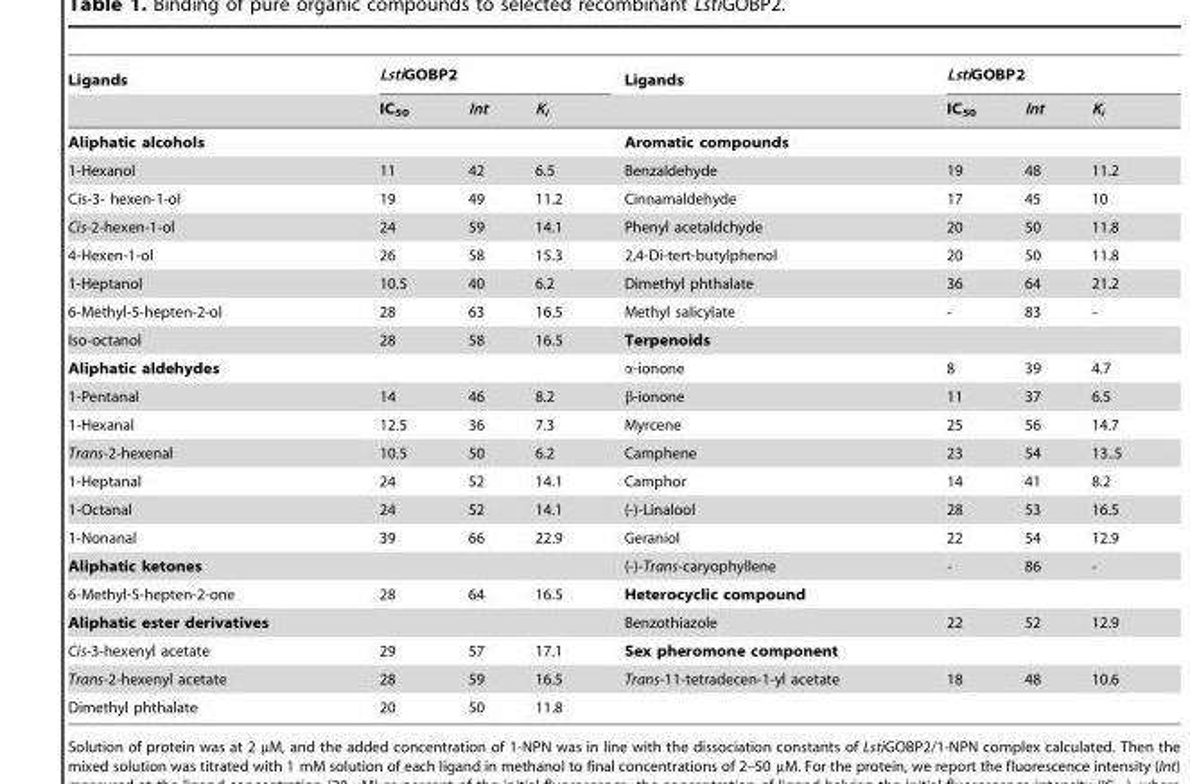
<table><thead><tr><td rowspan="2">Ligands</td><td colspan="3">LstiGOBP2</td><td rowspan="2">Ligands</td><td colspan="3">LstiGOBP2</td></tr><tr><td>IC<sub>50</sub></td><td>Int</td><td>K<sub>i</sub></td><td>IC<sub>50</sub></td><td>Int</td><td>K<sub>i</sub></td></tr></thead><tbody><tr><td colspan="4">Aliphatic alcohols</td><td colspan="4">Aromatic compounds</td></tr><tr><td>1-Hexanol</td><td>11</td><td>42</td><td>6.5</td><td>Benzaldehyde</td><td>19</td><td>48</td><td>11.2</td></tr><tr><td>Cis-3- hexen-1-ol</td><td>19</td><td>49</td><td>11.2</td><td>Cinnamaldehyde</td><td>17</td><td>45</td><td>10</td></tr><tr><td>Cis-2-hexen-1-ol</td><td>24</td><td>59</td><td>14.1</td><td>Phenyl acetaldchyde</td><td>20</td><td>50</td><td>11.8</td></tr><tr><td>4-Hexen-1-ol</td><td>26</td><td>58</td><td>15.3</td><td>2,4-Di-tert-butylphenol</td><td>20</td><td>50</td><td>11.8</td></tr><tr><td>1-Heptanol</td><td>10.5</td><td>40</td><td>6.2</td><td>Dimethyl phthalate</td><td>36</td><td>64</td><td>21.2</td></tr><tr><td>6-Methyl-5-hepten-2-ol</td><td>28</td><td>63</td><td>16.5</td><td>Methyl salicylate</td><td>-</td><td>83</td><td>-</td></tr><tr><td>Iso-octanol</td><td>28</td><td>58</td><td>16.5</td><td colspan="4">Terpenoids</td></tr><tr><td colspan="4">Aliphatic aldehydes</td><td>α-ionone</td><td>8</td><td>39</td><td>4.7</td></tr><tr><td>1-Pentanal</td><td>14</td><td>46</td><td>8.2</td><td>β-ionone</td><td>11</td><td>37</td><td>6.5</td></tr><tr><td>1-Hexanal</td><td>12.5</td><td>36</td><td>7.3</td><td>Myrcene</td><td>25</td><td>56</td><td>14.7</td></tr><tr><td>Trans-2-hexenal</td><td>10.5</td><td>50</td><td>6.2</td><td>Camphene</td><td>23</td><td>54</td><td>13..5</td></tr><tr><td>1-Heptanal</td><td>24</td><td>52</td><td>14.1</td><td>Camphor</td><td>14</td><td>41</td><td>8.2</td></tr><tr><td>1-Octanal</td><td>24</td><td>52</td><td>14.1</td><td>(-)-Linalool</td><td>28</td><td>53</td><td>16.5</td></tr><tr><td>1-Nonanal</td><td>39</td><td>66</td><td>22.9</td><td>Geraniol</td><td>22</td><td>54</td><td>12.9</td></tr><tr><td colspan="4">Aliphatic ketones</td><td>(-)-Trans-caryophyllene</td><td>-</td><td>86</td><td>-</td></tr><tr><td>6-Methyl-5-hepten-2-one</td><td>28</td><td>64</td><td>16.5</td><td colspan="4">Heterocyclic compound</td></tr><tr><td colspan="4">Aliphatic ester derivatives</td><td>Benzothiazole</td><td>22</td><td>52</td><td>12.9</td></tr><tr><td>Cis-3-hexenyl acetate</td><td>29</td><td>57</td><td>17.1</td><td colspan="4">Sex pheromone component</td></tr><tr><td>Trans-2-hexenyl acetate</td><td>28</td><td>59</td><td>16.5</td><td>Trans-11-tetradecen-1-yl acetate</td><td>18</td><td>48</td><td>10.6</td></tr><tr><td>Dimethyl phthalate</td><td>20</td><td>50</td><td>11.8</td><td></td><td></td><td></td><td></td></tr></tbody></table>